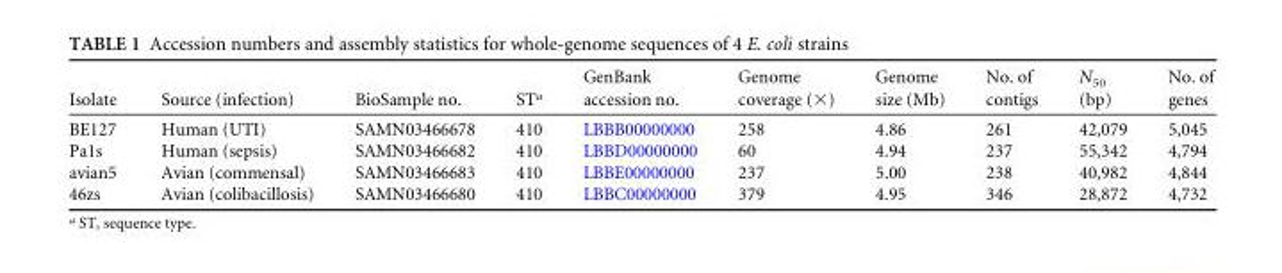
<table><thead><tr><td>Isolate</td><td>Source (infection)</td><td>BioSample no.</td><td>ST<sup>a</sup></td><td>GenBank accession no.</td><td>Genome coverage (×)</td><td>Genome size (Mb)</td><td>No. of contigs</td><td>N<sub>50</sub> (bp)</td><td>No. of genes</td></tr></thead><tbody><tr><td>BE127</td><td>Human (UTI)</td><td>SAMN03466678</td><td>410</td><td>LBBB00000000</td><td>258</td><td>4.86</td><td>261</td><td>42,079</td><td>5,045</td></tr><tr><td>Pa1s</td><td>Human (sepsis)</td><td>SAMN03466682</td><td>410</td><td>LBBD00000000</td><td>60</td><td>4.94</td><td>237</td><td>55,342</td><td>4,794</td></tr><tr><td>avian5</td><td>Avian (commensal)</td><td>SAMN03466683</td><td>410</td><td>LBBE00000000</td><td>237</td><td>5.00</td><td>238</td><td>40,982</td><td>4,844</td></tr><tr><td>46zs</td><td>Avian (colibacillosis)</td><td>SAMN03466680</td><td>410</td><td>LBBC00000000</td><td>379</td><td>4.95</td><td>346</td><td>28,872</td><td>4,732</td></tr></tbody></table>